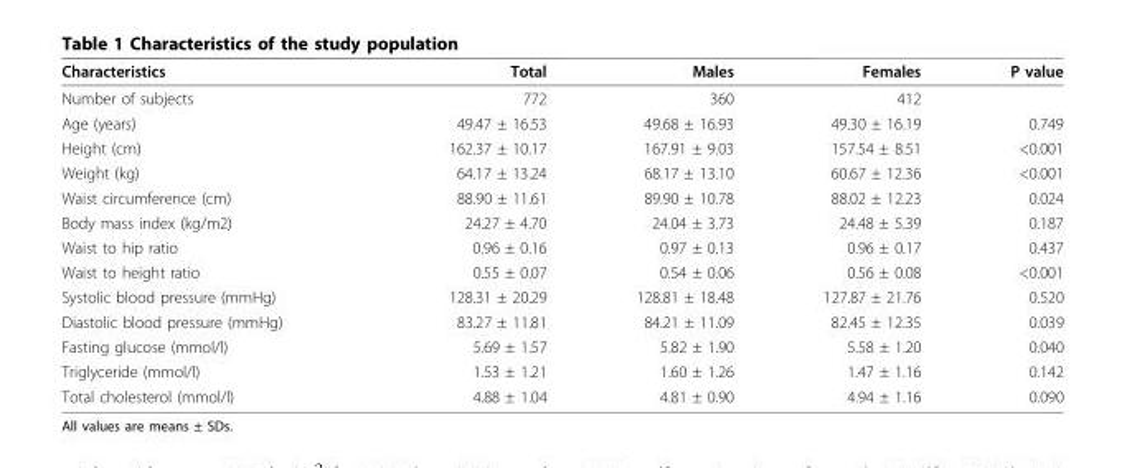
<table><thead><tr><td>Characteristics</td><td>Total</td><td>Males</td><td>Females</td><td>P value</td></tr></thead><tbody><tr><td>Number of subjects</td><td>772</td><td>360</td><td>412</td><td></td></tr><tr><td>Age (years)</td><td>49.47 ± 16.53</td><td>49.68 ± 16.93</td><td>49.30 ± 16.19</td><td>0.749</td></tr><tr><td>Height (cm)</td><td>162.37 ± 10.17</td><td>167.91 ± 9.03</td><td>157.54 ± 8.51</td><td>&lt;0.001</td></tr><tr><td>Weight (kg)</td><td>64.17 ± 13.24</td><td>68.17 ± 13.10</td><td>60.67 ± 12.36</td><td>&lt;0.001</td></tr><tr><td>Waist circumference (cm)</td><td>88.90 ± 11.61</td><td>89.90 ± 10.78</td><td>88.02 ± 12.23</td><td>0.024</td></tr><tr><td>Body mass index (kg/m2)</td><td>24.27 ± 4.70</td><td>24.04 ± 3.73</td><td>24.48 ± 5.39</td><td>0.187</td></tr><tr><td>Waist to hip ratio</td><td>0.96 ± 0.16</td><td>0.97 ± 0.13</td><td>0.96 ± 0.17</td><td>0.437</td></tr><tr><td>Waist to height ratio</td><td>0.55 ± 0.07</td><td>0.54 ± 0.06</td><td>0.56 ± 0.08</td><td>&lt;0.001</td></tr><tr><td>Systolic blood pressure (mmHg)</td><td>128.31 ± 20.29</td><td>128.81 ± 18.48</td><td>127.87 ± 21.76</td><td>0.520</td></tr><tr><td>Diastolic blood pressure (mmHg)</td><td>83.27 ± 11.81</td><td>84.21 ± 11.09</td><td>82.45 ± 12.35</td><td>0.039</td></tr><tr><td>Fasting glucose (mmol/l)</td><td>5.69 ± 1.57</td><td>5.82 ± 1.90</td><td>5.58 ± 1.20</td><td>0.040</td></tr><tr><td>Triglyceride (mmol/l)</td><td>1.53 ± 1.21</td><td>1.60 ± 1.26</td><td>1.47 ± 1.16</td><td>0.142</td></tr><tr><td>Total cholesterol (mmol/l)</td><td>4.88 ± 1.04</td><td>4.81 ± 0.90</td><td>4.94 ± 1.16</td><td>0.090</td></tr></tbody></table>